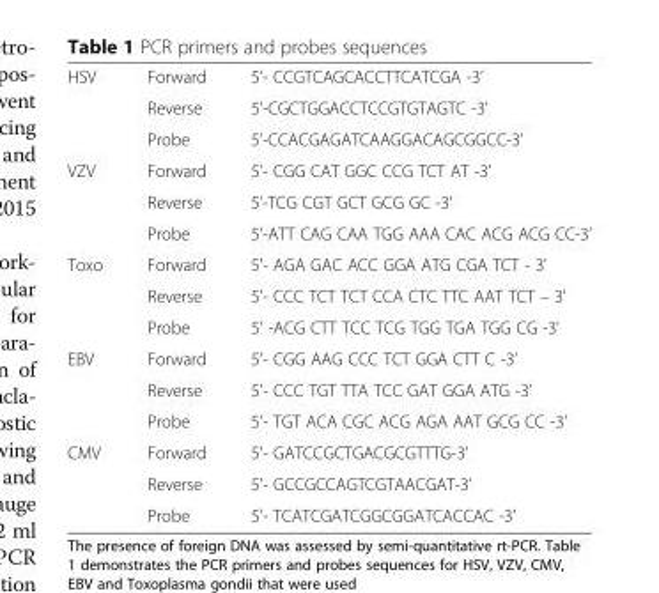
<table><tbody><tr><td rowspan="3">HSV</td><td>Forward</td><td>5’- CCGTCAGCACCTTCATCGA -3’</td></tr><tr><td>Reverse</td><td>5’-CGCTGGACCTCCGTGTAGTC -3’</td></tr><tr><td>Probe</td><td>5’-CCACGAGATCAAGGACAGCGGCC-3’</td></tr><tr><td rowspan="3">VZV</td><td>Forward</td><td>5’- CGG CAT GGC CCG TCT AT -3’</td></tr><tr><td>Reverse</td><td>5’-TCG CGT GCT GCG GC -3’</td></tr><tr><td>Probe</td><td>5’-ATT CAG CAA TGG AAA CAC ACG ACG CC-3’</td></tr><tr><td rowspan="3">Toxo</td><td>Forward</td><td>5&#x27;- AGA GAC ACC GGA ATG CGA TCT - 3&#x27;</td></tr><tr><td>Reverse</td><td>5&#x27;- CCC TCT TCT CCA CTC TTC AAT TCT – 3&#x27;</td></tr><tr><td>Probe</td><td>5&#x27; -ACG CTT TCC TCG TGG TGA TGG CG -3&#x27;</td></tr><tr><td rowspan="3">EBV</td><td>Forward</td><td>5&#x27;- CGG AAG CCC TCT GGA CTT C -3’</td></tr><tr><td>Reverse</td><td>5&#x27;- CCC TGT TTA TCC GAT GGA ATG -3’</td></tr><tr><td>Probe</td><td>5&#x27;- TGT ACA CGC ACG AGA AAT GCG CC -3’</td></tr><tr><td rowspan="3">CMV</td><td>Forward</td><td>5&#x27;- GATCCGCTGACGCGTTTG-3’</td></tr><tr><td>Reverse</td><td>5&#x27;- GCCGCCAGTCGTAACGAT-3’</td></tr><tr><td>Probe</td><td>5&#x27;- TCATCGATCGGCGGATCACCAC -3’</td></tr></tbody></table>